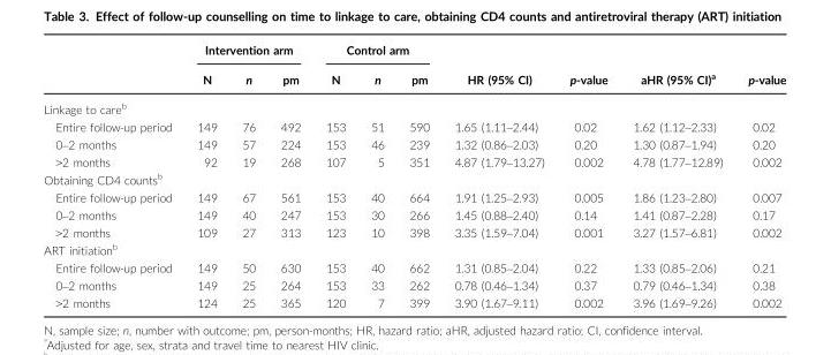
<table><thead><tr><td rowspan="2"></td><td colspan="3">Intervention arm</td><td colspan="3">Control arm</td><td rowspan="2">HR (95% CI)</td><td rowspan="2">p-value</td><td rowspan="2">aHR (95% CI)<sup>a</sup></td><td rowspan="2">p-value</td></tr><tr><td>N</td><td>n</td><td>pm</td><td>N</td><td>n</td><td>pm</td></tr></thead><tbody><tr><td colspan="11">Linkage to care<sup>b</sup></td></tr><tr><td>Entire follow-up period</td><td>149</td><td>76</td><td>492</td><td>153</td><td>51</td><td>590</td><td>1.65 (1.11–2.44)</td><td>0.02</td><td>1.62 (1.12–2.33)</td><td>0.02</td></tr><tr><td>0–2 months</td><td>149</td><td>57</td><td>224</td><td>153</td><td>46</td><td>239</td><td>1.32 (0.86–2.03)</td><td>0.20</td><td>1.30 (0.87–1.94)</td><td>0.20</td></tr><tr><td>&gt;2 months</td><td>92</td><td>19</td><td>268</td><td>107</td><td>5</td><td>351</td><td>4.87 (1.79–13.27)</td><td>0.002</td><td>4.78 (1.77–12.89)</td><td>0.002</td></tr><tr><td colspan="11">Obtaining CD4 counts<sup>b</sup></td></tr><tr><td>Entire follow-up period</td><td>149</td><td>67</td><td>561</td><td>153</td><td>40</td><td>664</td><td>1.91 (1.25–2.93)</td><td>0.005</td><td>1.86 (1.23–2.80)</td><td>0.007</td></tr><tr><td>0–2 months</td><td>149</td><td>40</td><td>247</td><td>153</td><td>30</td><td>266</td><td>1.45 (0.88–2.40)</td><td>0.14</td><td>1.41 (0.87–2.28)</td><td>0.17</td></tr><tr><td>&gt;2 months</td><td>109</td><td>27</td><td>313</td><td>123</td><td>10</td><td>398</td><td>3.35 (1.59–7.04)</td><td>0.001</td><td>3.27 (1.57–6.81)</td><td>0.002</td></tr><tr><td colspan="11">ART initiation<sup>b</sup></td></tr><tr><td>Entire follow-up period</td><td>149</td><td>50</td><td>630</td><td>153</td><td>40</td><td>662</td><td>1.31 (0.85–2.04)</td><td>0.22</td><td>1.33 (0.85–2.06)</td><td>0.21</td></tr><tr><td>0–2 months</td><td>149</td><td>25</td><td>264</td><td>153</td><td>33</td><td>262</td><td>0.78 (0.46–1.34)</td><td>0.37</td><td>0.79 (0.46–1.34)</td><td>0.38</td></tr><tr><td>&gt;2 months</td><td>124</td><td>25</td><td>365</td><td>120</td><td>7</td><td>399</td><td>3.90 (1.67–9.11)</td><td>0.002</td><td>3.96 (1.69–9.26)</td><td>0.002</td></tr></tbody></table>